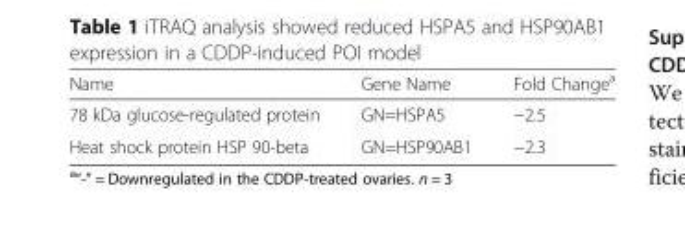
<table><thead><tr><td>Name</td><td>Gene Name</td><td>Fold Change<sup>a</sup></td></tr></thead><tbody><tr><td>78 kDa glucose-regulated protein</td><td>GN=HSPA5</td><td>−2.5</td></tr><tr><td>Heat shock protein HSP 90-beta</td><td>GN=HSP90AB1</td><td>−2.3</td></tr></tbody></table>